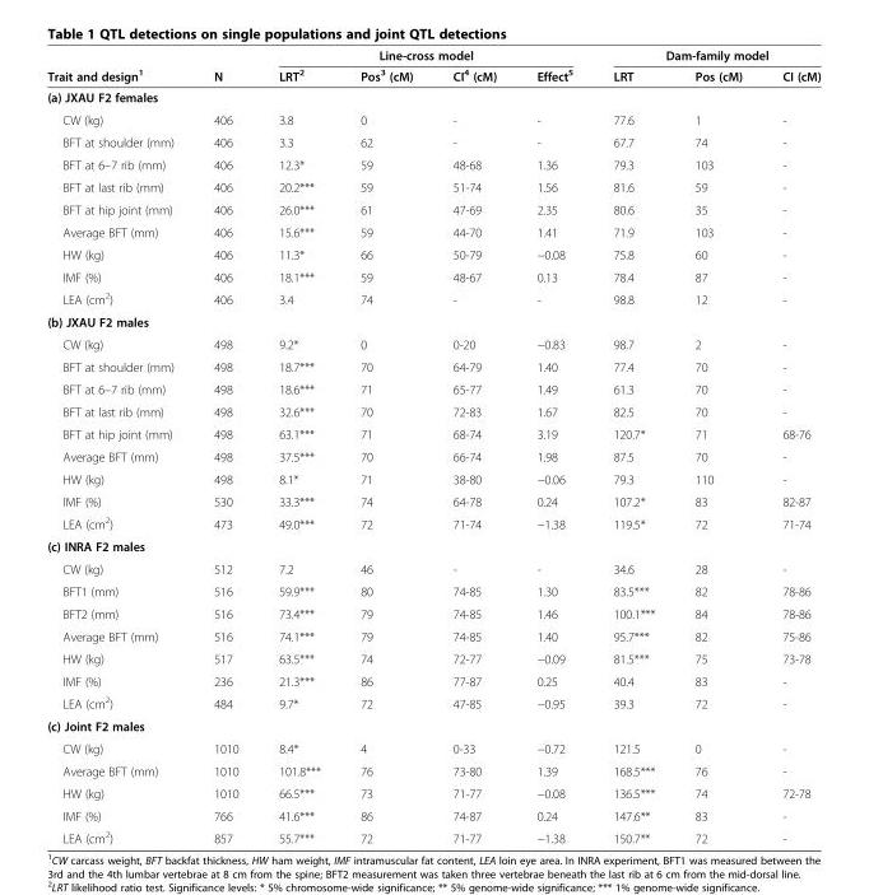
<table><thead><tr><td rowspan="2">Trait and design<sup>1</sup></td><td rowspan="2">N</td><td colspan="4">Line-cross model</td><td colspan="3">Dam-family model</td></tr><tr><td>LRT<sup>2</sup></td><td>Pos<sup>3</sup> (cM)</td><td>CI<sup>4</sup> (cM)</td><td>Effect<sup>5</sup></td><td>LRT</td><td>Pos (cM)</td><td>CI (cM)</td></tr></thead><tbody><tr><td colspan="9">(a) JXAU F2 females</td></tr><tr><td>CW (kg)</td><td>406</td><td>3.8</td><td>0</td><td>-</td><td>-</td><td>77.6</td><td>1</td><td>-</td></tr><tr><td>BFT at shoulder (mm)</td><td>406</td><td>3.3</td><td>62</td><td>-</td><td>-</td><td>67.7</td><td>74</td><td>-</td></tr><tr><td>BFT at 6–7 rib (mm)</td><td>406</td><td>12.3*</td><td>59</td><td>48-68</td><td>1.36</td><td>79.3</td><td>103</td><td>-</td></tr><tr><td>BFT at last rib (mm)</td><td>406</td><td>20.2***</td><td>59</td><td>51-74</td><td>1.56</td><td>81.6</td><td>59</td><td>-</td></tr><tr><td>BFT at hip joint (mm)</td><td>406</td><td>26.0***</td><td>61</td><td>47-69</td><td>2.35</td><td>80.6</td><td>35</td><td>-</td></tr><tr><td>Average BFT (mm)</td><td>406</td><td>15.6***</td><td>59</td><td>44-70</td><td>1.41</td><td>71.9</td><td>103</td><td>-</td></tr><tr><td>HW (kg)</td><td>406</td><td>11.3*</td><td>66</td><td>50-79</td><td>−0.08</td><td>75.8</td><td>60</td><td>-</td></tr><tr><td>IMF (%)</td><td>406</td><td>18.1***</td><td>59</td><td>48-67</td><td>0.13</td><td>78.4</td><td>87</td><td>-</td></tr><tr><td>LEA (cm<sup>2</sup>)</td><td>406</td><td>3.4</td><td>74</td><td>-</td><td>-</td><td>98.8</td><td>12</td><td>-</td></tr><tr><td colspan="9">(b) JXAU F2 males</td></tr><tr><td>CW (kg)</td><td>498</td><td>9.2*</td><td>0</td><td>0-20</td><td>−0.83</td><td>98.7</td><td>2</td><td>-</td></tr><tr><td>BFT at shoulder (mm)</td><td>498</td><td>18.7***</td><td>70</td><td>64-79</td><td>1.40</td><td>77.4</td><td>70</td><td>-</td></tr><tr><td>BFT at 6–7 rib (mm)</td><td>498</td><td>18.6***</td><td>71</td><td>65-77</td><td>1.49</td><td>61.3</td><td>70</td><td>-</td></tr><tr><td>BFT at last rib (mm)</td><td>498</td><td>32.6***</td><td>70</td><td>72-83</td><td>1.67</td><td>82.5</td><td>70</td><td>-</td></tr><tr><td>BFT at hip joint (mm)</td><td>498</td><td>63.1***</td><td>71</td><td>68-74</td><td>3.19</td><td>120.7*</td><td>71</td><td>68-76</td></tr><tr><td>Average BFT (mm)</td><td>498</td><td>37.5***</td><td>70</td><td>66-74</td><td>1.98</td><td>87.5</td><td>70</td><td>-</td></tr><tr><td>HW (kg)</td><td>498</td><td>8.1*</td><td>71</td><td>38-80</td><td>−0.06</td><td>79.3</td><td>110</td><td>-</td></tr><tr><td>IMF (%)</td><td>530</td><td>33.3***</td><td>74</td><td>64-78</td><td>0.24</td><td>107.2*</td><td>83</td><td>82-87</td></tr><tr><td>LEA (cm<sup>2</sup>)</td><td>473</td><td>49.0***</td><td>72</td><td>71-74</td><td>−1.38</td><td>119.5*</td><td>72</td><td>71-74</td></tr><tr><td colspan="9">(c) INRA F2 males</td></tr><tr><td>CW (kg)</td><td>512</td><td>7.2</td><td>46</td><td>-</td><td>-</td><td>34.6</td><td>28</td><td>-</td></tr><tr><td>BFT1 (mm)</td><td>516</td><td>59.9***</td><td>80</td><td>74-85</td><td>1.30</td><td>83.5***</td><td>82</td><td>78-86</td></tr><tr><td>BFT2 (mm)</td><td>516</td><td>73.4***</td><td>79</td><td>74-85</td><td>1.46</td><td>100.1***</td><td>84</td><td>78-86</td></tr><tr><td>Average BFT (mm)</td><td>516</td><td>74.1***</td><td>79</td><td>74-85</td><td>1.40</td><td>95.7***</td><td>82</td><td>75-86</td></tr><tr><td>HW (kg)</td><td>517</td><td>63.5***</td><td>74</td><td>72-77</td><td>−0.09</td><td>81.5***</td><td>75</td><td>73-78</td></tr><tr><td>IMF (%)</td><td>236</td><td>21.3***</td><td>86</td><td>77-87</td><td>0.25</td><td>40.4</td><td>83</td><td>-</td></tr><tr><td>LEA (cm<sup>2</sup>)</td><td>484</td><td>9.7*</td><td>72</td><td>47-85</td><td>−0.95</td><td>39.3</td><td>72</td><td>-</td></tr><tr><td colspan="9">(c) Joint F2 males</td></tr><tr><td>CW (kg)</td><td>1010</td><td>8.4*</td><td>4</td><td>0-33</td><td>−0.72</td><td>121.5</td><td>0</td><td>-</td></tr><tr><td>Average BFT (mm)</td><td>1010</td><td>101.8***</td><td>76</td><td>73-80</td><td>1.39</td><td>168.5***</td><td>76</td><td>-</td></tr><tr><td>HW (kg)</td><td>1010</td><td>66.5***</td><td>73</td><td>71-77</td><td>−0.08</td><td>136.5***</td><td>74</td><td>72-78</td></tr><tr><td>IMF (%)</td><td>766</td><td>41.6***</td><td>86</td><td>74-87</td><td>0.24</td><td>147.6**</td><td>83</td><td>-</td></tr><tr><td>LEA (cm<sup>2</sup>)</td><td>857</td><td>55.7***</td><td>72</td><td>71-77</td><td>−1.38</td><td>150.7**</td><td>72</td><td>-</td></tr></tbody></table>